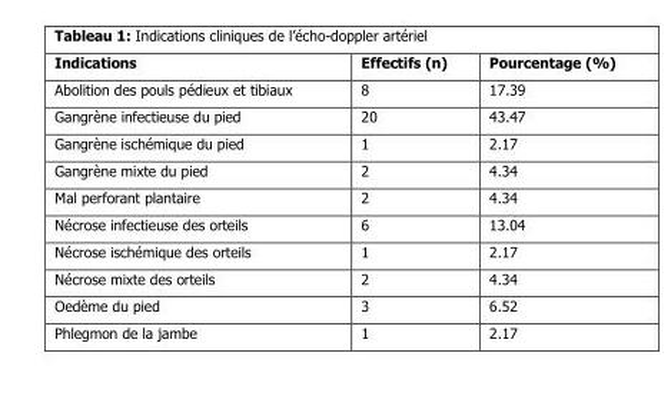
<table><thead><tr><td>Indications</td><td>Effectifs (n)</td><td>Pourcentage (%)</td></tr></thead><tbody><tr><td>Abolition des pouls pédieux et tibiaux</td><td>8</td><td>17.39</td></tr><tr><td>Gangrène infectieuse du pied</td><td>20</td><td>43.47</td></tr><tr><td>Gangrène ischémique du pied</td><td>1</td><td>2.17</td></tr><tr><td>Gangrène mixte du pied</td><td>2</td><td>4.34</td></tr><tr><td>Mal perforant plantaire</td><td>2</td><td>4.34</td></tr><tr><td>Nécrose infectieuse des orteils</td><td>6</td><td>13.04</td></tr><tr><td>Nécrose ischémique des orteils</td><td>1</td><td>2.17</td></tr><tr><td>Nécrose mixte des orteils</td><td>2</td><td>4.34</td></tr><tr><td>Oedème du pied</td><td>3</td><td>6.52</td></tr><tr><td>Phlegmon de la jambe</td><td>1</td><td>2.17</td></tr></tbody></table>